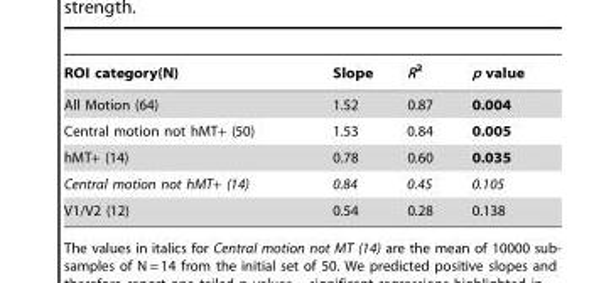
<table><thead><tr><td>ROI category(N)</td><td>Slope</td><td>R<sup>2</sup></td><td>p value</td></tr></thead><tbody><tr><td>All Motion (64)</td><td>1.52</td><td>0.87</td><td>0.004</td></tr><tr><td>Central motion not hMT+ (50)</td><td>1.53</td><td>0.84</td><td>0.005</td></tr><tr><td>hMT+ (14)</td><td>0.78</td><td>0.60</td><td>0.035</td></tr><tr><td>Central motion not hMT+ (14)</td><td>0.84</td><td>0.45</td><td>0.105</td></tr><tr><td>V1/V2 (12)</td><td>0.54</td><td>0.28</td><td>0.138</td></tr></tbody></table>